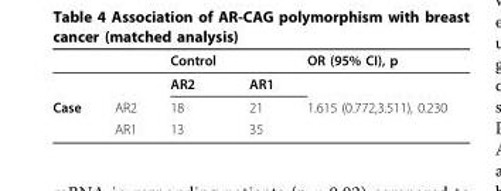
<table><thead><tr><td></td><td></td><td>Control</td><td></td><td>OR (95% CI), p</td></tr></thead><tbody><tr><td></td><td></td><td>AR2</td><td>AR1</td><td></td></tr><tr><td rowspan="2">Case</td><td>AR2</td><td>18</td><td>21</td><td>1.615 (0.772,3.511), 0.230</td></tr><tr><td>AR1</td><td>13</td><td>35</td><td></td></tr></tbody></table>